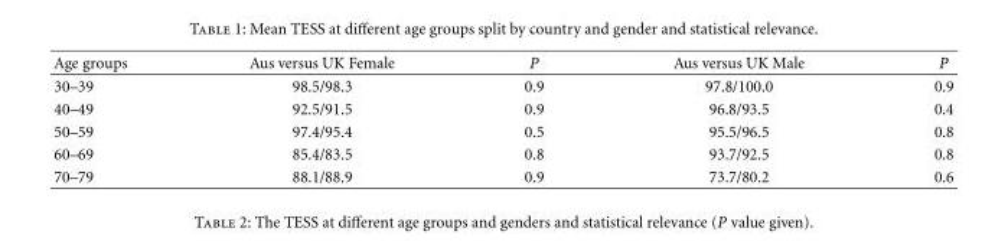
<table><thead><tr><td>Age groups</td><td>Aus versus UK Female</td><td>P</td><td>Aus versus UK Male</td><td>P</td></tr></thead><tbody><tr><td>30–39</td><td>98.5/98.3</td><td>0.9</td><td>97.8/100.0</td><td>0.9</td></tr><tr><td>40–49</td><td>92.5/91.5</td><td>0.9</td><td>96.8/93.5</td><td>0.4</td></tr><tr><td>50–59</td><td>97.4/95.4</td><td>0.5</td><td>95.5/96.5</td><td>0.8</td></tr><tr><td>60–69</td><td>85.4/83.5</td><td>0.8</td><td>93.7/92.5</td><td>0.8</td></tr><tr><td>70–79</td><td>88.1/88.9</td><td>0.9</td><td>73.7/80.2</td><td>0.6</td></tr></tbody></table>